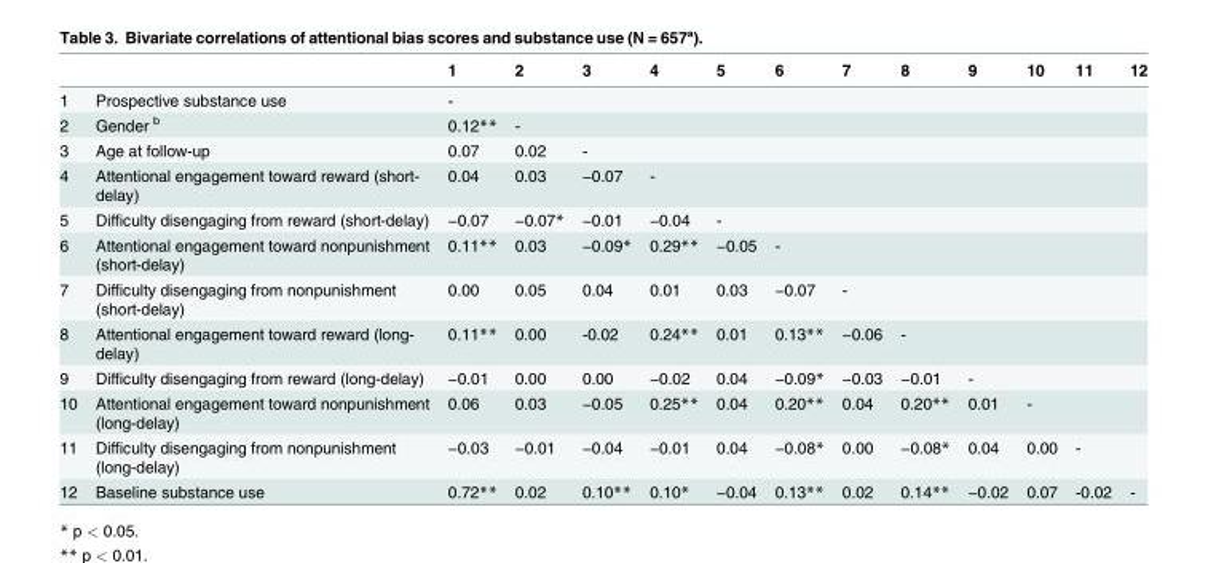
<table><thead><tr><td></td><td></td><td>1</td><td>2</td><td>3</td><td>4</td><td>5</td><td>6</td><td>7</td><td>8</td><td>9</td><td>10</td><td>11</td><td>12</td></tr></thead><tbody><tr><td>1</td><td>Prospective substance use</td><td>-</td><td></td><td></td><td></td><td></td><td></td><td></td><td></td><td></td><td></td><td></td><td></td></tr><tr><td>2</td><td>Gender <sup>b</sup></td><td>0.12**</td><td>-</td><td></td><td></td><td></td><td></td><td></td><td></td><td></td><td></td><td></td><td></td></tr><tr><td>3</td><td>Age at follow-up</td><td>0.07</td><td>0.02</td><td>-</td><td></td><td></td><td></td><td></td><td></td><td></td><td></td><td></td><td></td></tr><tr><td>4</td><td>Attentional engagement toward reward (short- delay)</td><td>0.04</td><td>0.03</td><td>−0.07</td><td>-</td><td></td><td></td><td></td><td></td><td></td><td></td><td></td><td></td></tr><tr><td>5</td><td>Difficulty disengaging from reward (short-delay)</td><td>−0.07</td><td>−0.07*</td><td>−0.01</td><td>−0.04</td><td>-</td><td></td><td></td><td></td><td></td><td></td><td></td><td></td></tr><tr><td>6</td><td>Attentional engagement toward nonpunishment (short-delay)</td><td>0.11**</td><td>0.03</td><td>−0.09*</td><td>0.29**</td><td>−0.05</td><td>-</td><td></td><td></td><td></td><td></td><td></td><td></td></tr><tr><td>7</td><td>Difficulty disengaging from nonpunishment (short-delay)</td><td>0.00</td><td>0.05</td><td>0.04</td><td>0.01</td><td>0.03</td><td>−0.07</td><td>-</td><td></td><td></td><td></td><td></td><td></td></tr><tr><td>8</td><td>Attentional engagement toward reward (long- delay)</td><td>0.11**</td><td>0.00</td><td>-0.02</td><td>0.24**</td><td>0.01</td><td>0.13**</td><td>−0.06</td><td>-</td><td></td><td></td><td></td><td></td></tr><tr><td>9</td><td>Difficulty disengaging from reward (long-delay)</td><td>−0.01</td><td>0.00</td><td>0.00</td><td>−0.02</td><td>0.04</td><td>−0.09*</td><td>−0.03</td><td>−0.01</td><td>-</td><td></td><td></td><td></td></tr><tr><td>10</td><td>Attentional engagement toward nonpunishment (long-delay)</td><td>0.06</td><td>0.03</td><td>−0.05</td><td>0.25**</td><td>0.04</td><td>0.20**</td><td>0.04</td><td>0.20**</td><td>0.01</td><td>-</td><td></td><td></td></tr><tr><td>11</td><td>Difficulty disengaging from nonpunishment (long-delay)</td><td>−0.03</td><td>−0.01</td><td>−0.04</td><td>−0.01</td><td>0.04</td><td>−0.08*</td><td>0.00</td><td>−0.08*</td><td>0.04</td><td>0.00</td><td>-</td><td></td></tr><tr><td>12</td><td>Baseline substance use</td><td>0.72**</td><td>0.02</td><td>0.10**</td><td>0.10*</td><td>−0.04</td><td>0.13**</td><td>0.02</td><td>0.14**</td><td>−0.02</td><td>0.07</td><td>-0.02</td><td>-</td></tr></tbody></table>